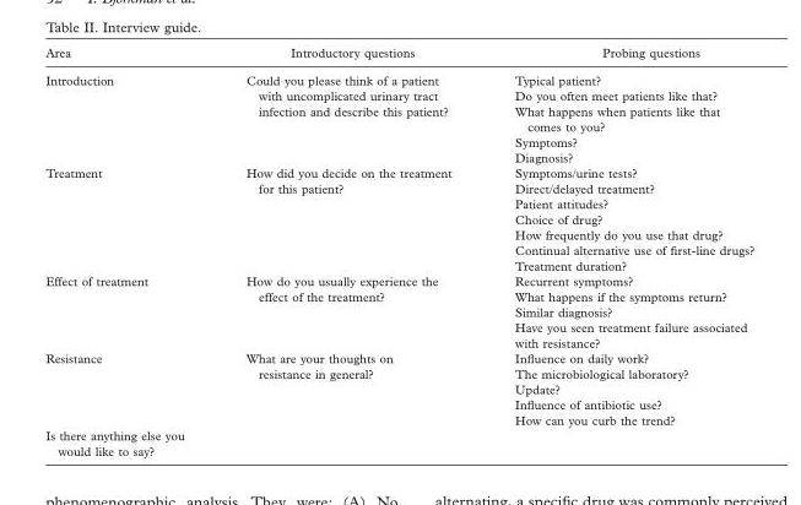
<table><thead><tr><td>Area</td><td>Introductory questions</td><td>Probing questions</td></tr></thead><tbody><tr><td>Introduction</td><td>Could you please think of a patient with uncomplicated urinary tract infection and describe this patient?</td><td>Typical patient? Do you often meet patients like that? What happens when patients like that comes to you? Symptoms? Diagnosis?</td></tr><tr><td>Treatment</td><td>How did you decide on the treatment for this patient?</td><td>Symptoms/urine tests? Direct/delayed treatment? Patient attitudes? Choice of drug? How frequently do you use that drug? Continual alternative use of fi rst-line drugs? Treatment duration?</td></tr><tr><td>Effect of treatment</td><td>How do you usually experience the effect of the treatment?</td><td>Recurrent symptoms? What happens if the symptoms return? Similar diagnosis? Have you seen treatment failure associated with resistance?</td></tr><tr><td>Resistance</td><td>What are your thoughts on resistance in general?</td><td>Infl uence on daily work? The microbiological laboratory? Update? Infl uence of antibiotic use? How can you curb the trend?</td></tr><tr><td>Is there anything else you would like to say?</td><td></td><td></td></tr></tbody></table>